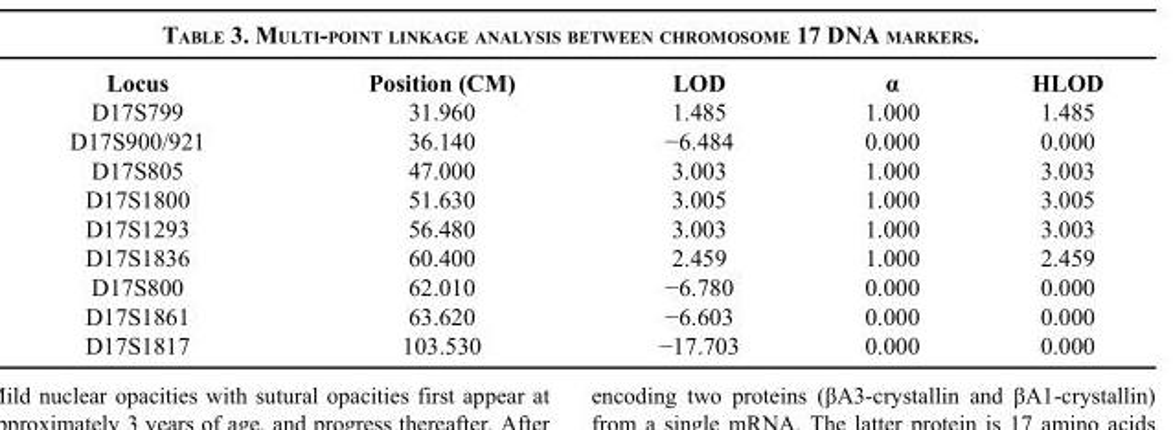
<table><thead><tr><td>Locus</td><td>Position (CM)</td><td>LOD</td><td>α</td><td>HLOD</td></tr></thead><tbody><tr><td>D17S799</td><td>31.960</td><td>1.485</td><td>1.000</td><td>1.485</td></tr><tr><td>D17S900/921</td><td>36.140</td><td>−6.484</td><td>0.000</td><td>0.000</td></tr><tr><td>D17S805</td><td>47.000</td><td>3.003</td><td>1.000</td><td>3.003</td></tr><tr><td>D17S1800</td><td>51.630</td><td>3.005</td><td>1.000</td><td>3.005</td></tr><tr><td>D17S1293</td><td>56.480</td><td>3.003</td><td>1.000</td><td>3.003</td></tr><tr><td>D17S1836</td><td>60.400</td><td>2.459</td><td>1.000</td><td>2.459</td></tr><tr><td>D17S800</td><td>62.010</td><td>−6.780</td><td>0.000</td><td>0.000</td></tr><tr><td>D17S1861</td><td>63.620</td><td>−6.603</td><td>0.000</td><td>0.000</td></tr><tr><td>D17S1817</td><td>103.530</td><td>−17.703</td><td>0.000</td><td>0.000</td></tr></tbody></table>